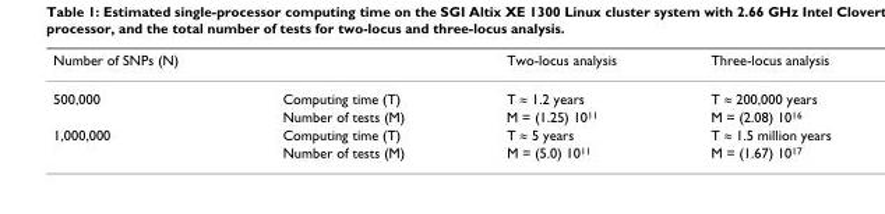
<table><thead><tr><td>Number of SNPs (N)</td><td></td><td>Two-locus analysis</td><td>Three-locus analysis</td></tr></thead><tbody><tr><td rowspan="2">500,000</td><td>Computing time (T)</td><td>T ≈ 1.2 years</td><td>T ≈ 200,000 years</td></tr><tr><td>Number of tests (M)</td><td>M = (1.25) 10<sup>11</sup></td><td>M = (2.08) 10<sup>16</sup></td></tr><tr><td rowspan="2">1,000,000</td><td>Computing time (T)</td><td>T ≈ 5 years</td><td>T ≈ 1.5 million years</td></tr><tr><td>Number of tests (M)</td><td>M = (5.0) 10<sup>11</sup></td><td>M = (1.67) 10<sup>17</sup></td></tr></tbody></table>